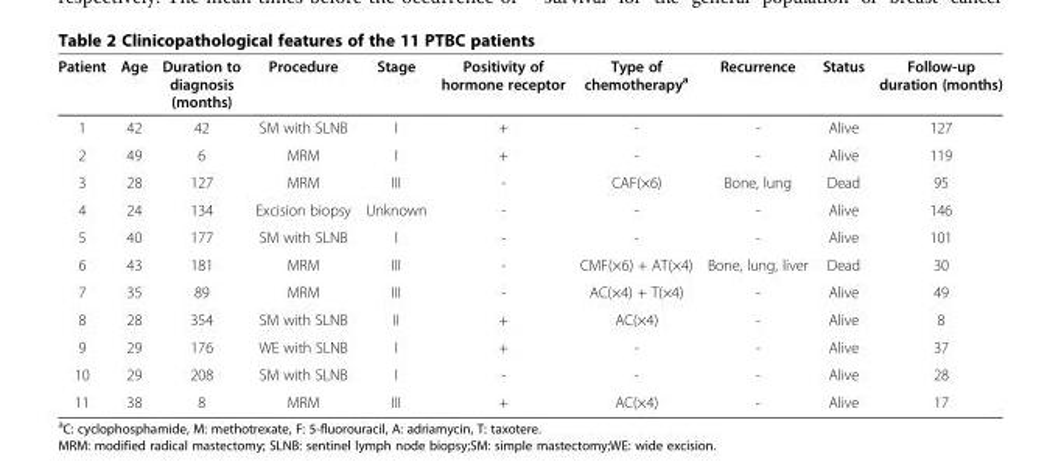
<table><thead><tr><td>Patient</td><td>Age</td><td>Duration to diagnosis (months)</td><td>Procedure</td><td>Stage</td><td>Positivity of hormone receptor</td><td>Type of chemotherapy<sup>a</sup></td><td>Recurrence</td><td>Status</td><td>Follow-up duration (months)</td></tr></thead><tbody><tr><td>1</td><td>42</td><td>42</td><td>SM with SLNB</td><td>I</td><td>+</td><td>-</td><td>-</td><td>Alive</td><td>127</td></tr><tr><td>2</td><td>49</td><td>6</td><td>MRM</td><td>I</td><td>+</td><td>-</td><td>-</td><td>Alive</td><td>119</td></tr><tr><td>3</td><td>28</td><td>127</td><td>MRM</td><td>III</td><td>-</td><td>CAF(×6)</td><td>Bone, lung</td><td>Dead</td><td>95</td></tr><tr><td>4</td><td>24</td><td>134</td><td>Excision biopsy</td><td>Unknown</td><td>-</td><td>-</td><td>-</td><td>Alive</td><td>146</td></tr><tr><td>5</td><td>40</td><td>177</td><td>SM with SLNB</td><td>I</td><td>-</td><td>-</td><td>-</td><td>Alive</td><td>101</td></tr><tr><td>6</td><td>43</td><td>181</td><td>MRM</td><td>III</td><td>-</td><td>CMF(×6) + AT(×4)</td><td>Bone, lung, liver</td><td>Dead</td><td>30</td></tr><tr><td>7</td><td>35</td><td>89</td><td>MRM</td><td>III</td><td>-</td><td>AC(×4) + T(×4)</td><td>-</td><td>Alive</td><td>49</td></tr><tr><td>8</td><td>28</td><td>354</td><td>SM with SLNB</td><td>II</td><td>+</td><td>AC(×4)</td><td>-</td><td>Alive</td><td>8</td></tr><tr><td>9</td><td>29</td><td>176</td><td>WE with SLNB</td><td>I</td><td>+</td><td>-</td><td>-</td><td>Alive</td><td>37</td></tr><tr><td>10</td><td>29</td><td>208</td><td>SM with SLNB</td><td>I</td><td>-</td><td>-</td><td>-</td><td>Alive</td><td>28</td></tr><tr><td>11</td><td>38</td><td>8</td><td>MRM</td><td>III</td><td>+</td><td>AC(×4)</td><td>-</td><td>Alive</td><td>17</td></tr></tbody></table>